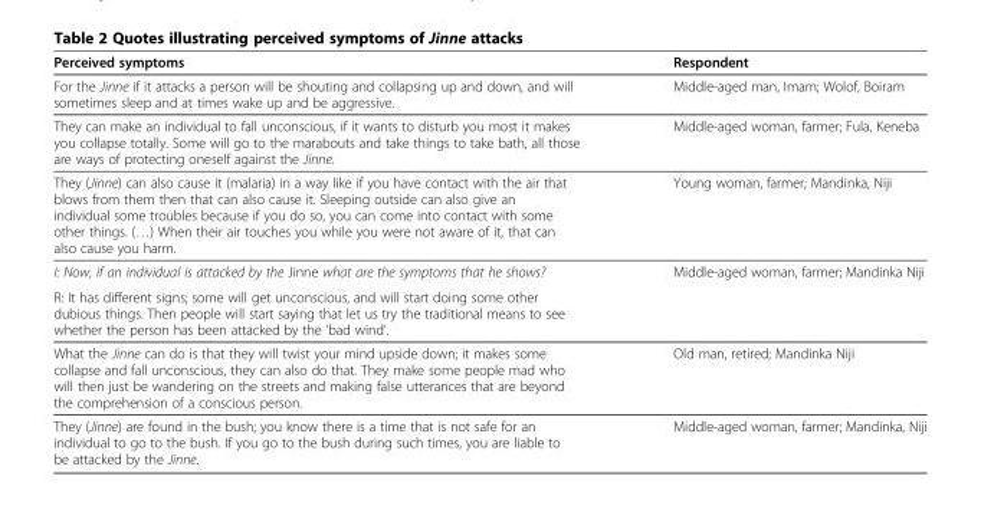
<table><thead><tr><td>Perceived symptoms</td><td>Respondent</td></tr></thead><tbody><tr><td>For the Jinne if it attacks a person will be shouting and collapsing up and down, and will sometimes sleep and at times wake up and be aggressive.</td><td>Middle-aged man, Imam; Wolof, Boiram</td></tr><tr><td>They can make an individual to fall unconscious, if it wants to disturb you most it makes you collapse totally. Some will go to the marabouts and take things to take bath, all those are ways of protecting oneself against the Jinne.</td><td>Middle-aged woman, farmer; Fula, Keneba</td></tr><tr><td>They (Jinne) can also cause it (malaria) in a way like if you have contact with the air that blows from them then that can also cause it. Sleeping outside can also give an individual some troubles because if you do so, you can come into contact with some other things. (…) When their air touches you while you were not aware of it, that can also cause you harm.</td><td>Young woman, farmer; Mandinka, Niji</td></tr><tr><td>I: Now, if an individual is attacked by the Jinne what are the symptoms that he shows?</td><td rowspan="2">Middle-aged woman, farmer; Mandinka Niji</td></tr><tr><td>R: It has different signs; some will get unconscious, and will start doing some other dubious things. Then people will start saying that let us try the traditional means to see whether the person has been attacked by the ‘bad wind’.</td></tr><tr><td>What the Jinne can do is that they will twist your mind upside down; it makes some collapse and fall unconscious, they can also do that. They make some people mad who will then just be wandering on the streets and making false utterances that are beyond the comprehension of a conscious person.</td><td>Old man, retired; Mandinka Niji</td></tr><tr><td>They (Jinne) are found in the bush; you know there is a time that is not safe for an individual to go to the bush. If you go to the bush during such times, you are liable to be attacked by the Jinne.</td><td>Middle-aged woman, farmer; Mandinka, Niji</td></tr></tbody></table>